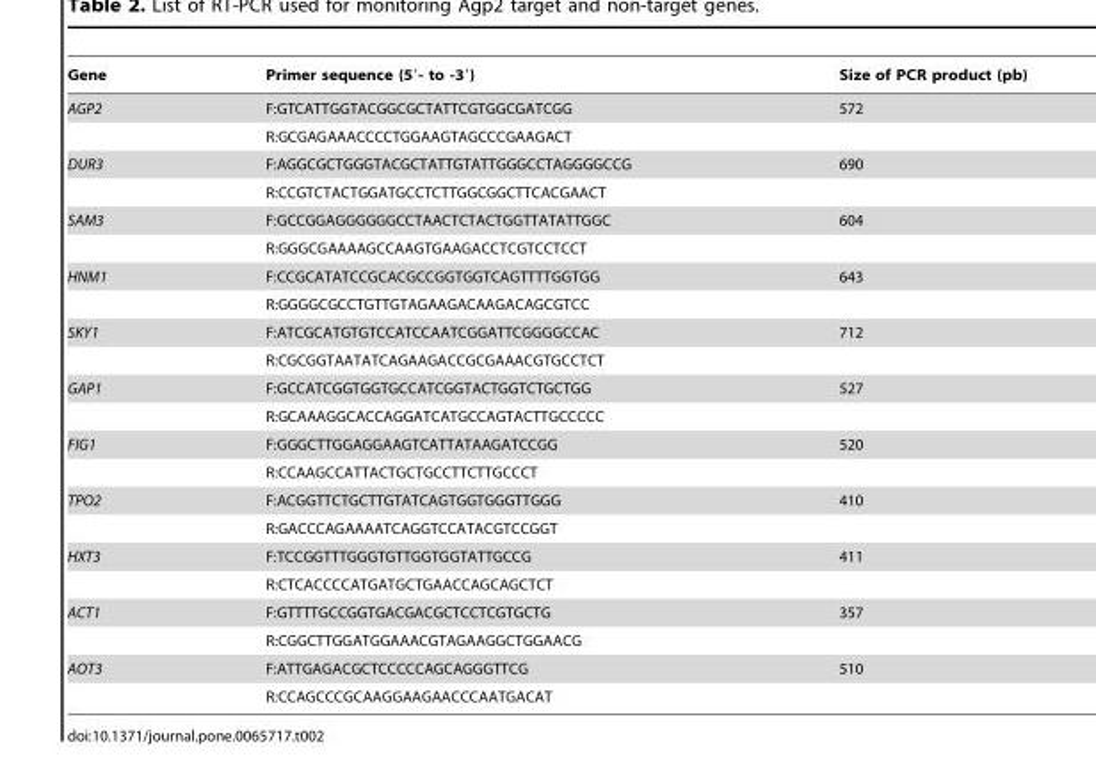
<table><thead><tr><td>Gene</td><td>Primer sequence (5′- to -3′)</td><td>Size of PCR product (pb)</td></tr></thead><tbody><tr><td rowspan="2">AGP2</td><td>F:GTCATTGGTACGGCGCTATTCGTGGCGATCGG</td><td>572</td></tr><tr><td>R:GCGAGAAACCCCTGGAAGTAGCCCGAAGACT</td><td></td></tr><tr><td rowspan="2">DUR3</td><td>F:AGGCGCTGGGTACGCTATTGTATTGGGCCTAGGGGCCG</td><td>690</td></tr><tr><td>R:CCGTCTACTGGATGCCTCTTGGCGGCTTCACGAACT</td><td></td></tr><tr><td rowspan="2">SAM3</td><td>F:GCCGGAGGGGGGCCTAACTCTACTGGTTATATTGGC</td><td>604</td></tr><tr><td>R:GGGCGAAAAGCCAAGTGAAGACCTCGTCCTCCT</td><td></td></tr><tr><td rowspan="2">HNM1</td><td>F:CCGCATATCCGCACGCCGGTGGTCAGTTTTGGTGG</td><td>643</td></tr><tr><td>R:GGGGCGCCTGTTGTAGAAGACAAGACAGCGTCC</td><td></td></tr><tr><td rowspan="2">SKY1</td><td>F:ATCGCATGTGTCCATCCAATCGGATTCGGGGCCAC</td><td>712</td></tr><tr><td>R:CGCGGTAATATCAGAAGACCGCGAAACGTGCCTCT</td><td></td></tr><tr><td rowspan="2">GAP1</td><td>F:GCCATCGGTGGTGCCATCGGTACTGGTCTGCTGG</td><td>527</td></tr><tr><td>R:GCAAAGGCACCAGGATCATGCCAGTACTTGCCCCC</td><td></td></tr><tr><td rowspan="2">FIG1</td><td>F:GGGCTTGGAGGAAGTCATTATAAGATCCGG</td><td>520</td></tr><tr><td>R:CCAAGCCATTACTGCTGCCTTCTTGCCCT</td><td></td></tr><tr><td rowspan="2">TPO2</td><td>F:ACGGTTCTGCTTGTATCAGTGGTGGGTTGGG</td><td>410</td></tr><tr><td>R:GACCCAGAAAATCAGGTCCATACGTCCGGT</td><td></td></tr><tr><td rowspan="2">HXT3</td><td>F:TCCGGTTTGGGTGTTGGTGGTATTGCCG</td><td>411</td></tr><tr><td>R:CTCACCCCATGATGCTGAACCAGCAGCTCT</td><td></td></tr><tr><td rowspan="2">ACT1</td><td>F:GTTTTGCCGGTGACGACGCTCCTCGTGCTG</td><td>357</td></tr><tr><td>R:CGGCTTGGATGGAAACGTAGAAGGCTGGAACG</td><td></td></tr><tr><td rowspan="2">AOT3</td><td>F:ATTGAGACGCTCCCCCAGCAGGGTTCG</td><td>510</td></tr><tr><td>R:CCAGCCCGCAAGGAAGAACCCAATGACAT</td><td></td></tr></tbody></table>